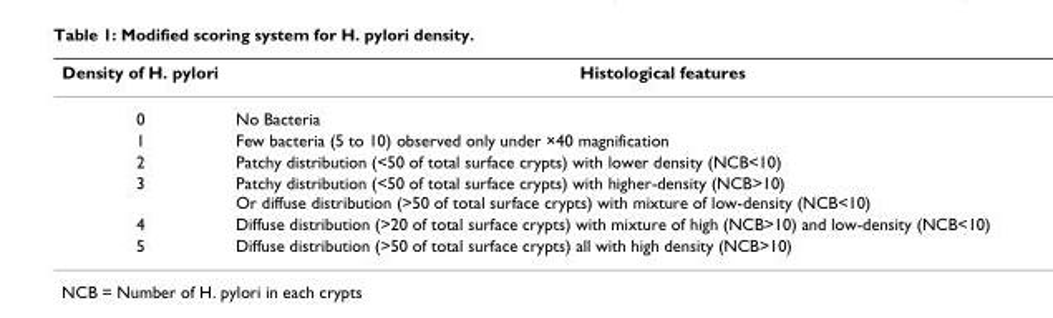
<table><thead><tr><td>Density of H. pylori</td><td>Histological features</td></tr></thead><tbody><tr><td>0</td><td>No Bacteria</td></tr><tr><td>1</td><td>Few bacteria (5 to 10) observed only under ×40 magnification</td></tr><tr><td>2</td><td>Patchy distribution (&lt;50 of total surface crypts) with lower density (NCB&lt;10)</td></tr><tr><td>3</td><td>Patchy distribution (&lt;50 of total surface crypts) with higher-density (NCB&gt;10) Or diffuse distribution (&gt;50 of total surface crypts) with mixture of low-density (NCB&lt;10)</td></tr><tr><td>4</td><td>Diffuse distribution (&gt;20 of total surface crypts) with mixture of high (NCB&gt;10) and low-density (NCB&lt;10)</td></tr><tr><td>5</td><td>Diffuse distribution (&gt;50 of total surface crypts) all with high density (NCB&gt;10)</td></tr></tbody></table>